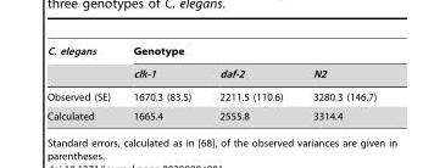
<table><thead><tr><td rowspan="2">C. elegans</td><td colspan="3">Genotype</td></tr><tr><td>clk-1</td><td>daf-2</td><td>N2</td></tr></thead><tbody><tr><td>Observed (SE)</td><td>1670.3 (83.5)</td><td>2211.5 (110.6)</td><td>3280.3 (146.7)</td></tr><tr><td>Calculated</td><td>1665.4</td><td>2555.8</td><td>3314.4</td></tr></tbody></table>